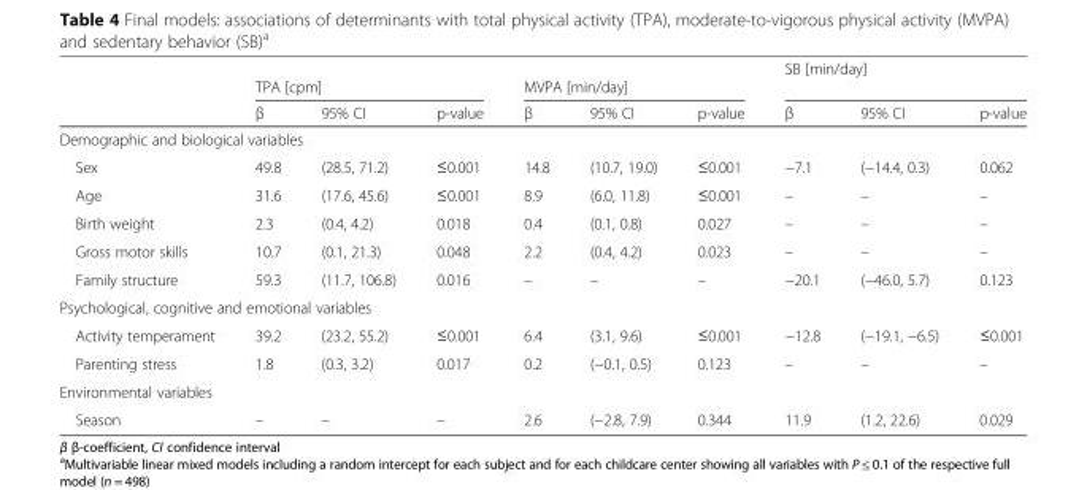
<table><thead><tr><td rowspan="2"></td><td colspan="3">TPA [cpm]</td><td colspan="3">MVPA [min/day]</td><td colspan="3">SB [min/day]</td></tr><tr><td>β</td><td>95% CI</td><td>p-value</td><td>β</td><td>95% CI</td><td>p-value</td><td>β</td><td>95% CI</td><td>p-value</td></tr></thead><tbody><tr><td colspan="10">Demographic and biological variables</td></tr><tr><td>Sex</td><td>49.8</td><td>(28.5, 71.2)</td><td>≤0.001</td><td>14.8</td><td>(10.7, 19.0)</td><td>≤0.001</td><td>−7.1</td><td>(−14.4, 0.3)</td><td>0.062</td></tr><tr><td>Age</td><td>31.6</td><td>(17.6, 45.6)</td><td>≤0.001</td><td>8.9</td><td>(6.0, 11.8)</td><td>≤0.001</td><td>–</td><td>–</td><td>–</td></tr><tr><td>Birth weight</td><td>2.3</td><td>(0.4, 4.2)</td><td>0.018</td><td>0.4</td><td>(0.1, 0.8)</td><td>0.027</td><td>–</td><td>–</td><td>–</td></tr><tr><td>Gross motor skills</td><td>10.7</td><td>(0.1, 21.3)</td><td>0.048</td><td>2.2</td><td>(0.4, 4.2)</td><td>0.023</td><td>–</td><td>–</td><td>–</td></tr><tr><td>Family structure</td><td>59.3</td><td>(11.7, 106.8)</td><td>0.016</td><td>–</td><td>–</td><td>–</td><td>−20.1</td><td>(−46.0, 5.7)</td><td>0.123</td></tr><tr><td colspan="10">Psychological, cognitive and emotional variables</td></tr><tr><td>Activity temperament</td><td>39.2</td><td>(23.2, 55.2)</td><td>≤0.001</td><td>6.4</td><td>(3.1, 9.6)</td><td>≤0.001</td><td>−12.8</td><td>(−19.1, −6.5)</td><td>≤0.001</td></tr><tr><td>Parenting stress</td><td>1.8</td><td>(0.3, 3.2)</td><td>0.017</td><td>0.2</td><td>(−0.1, 0.5)</td><td>0.123</td><td>–</td><td>–</td><td>–</td></tr><tr><td colspan="10">Environmental variables</td></tr><tr><td>Season</td><td>–</td><td>–</td><td>–</td><td>2.6</td><td>(−2.8, 7.9)</td><td>0.344</td><td>11.9</td><td>(1.2, 22.6)</td><td>0.029</td></tr></tbody></table>